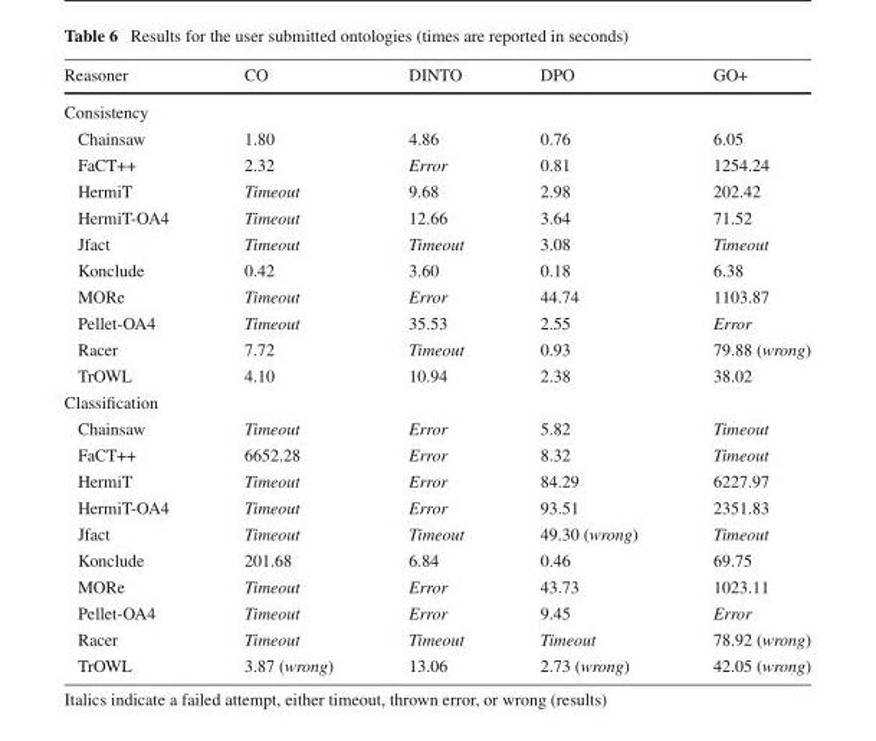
<table><thead><tr><td>Reasoner</td><td>CO</td><td>DINTO</td><td>DPO</td><td>GO+</td></tr></thead><tbody><tr><td colspan="5">Consistency</td></tr><tr><td>Chainsaw</td><td>1.80</td><td>4.86</td><td>0.76</td><td>6.05</td></tr><tr><td>FaCT++</td><td>2.32</td><td>Error</td><td>0.81</td><td>1254.24</td></tr><tr><td>HermiT</td><td>Timeout</td><td>9.68</td><td>2.98</td><td>202.42</td></tr><tr><td>HermiT-OA4</td><td>Timeout</td><td>12.66</td><td>3.64</td><td>71.52</td></tr><tr><td>Jfact</td><td>Timeout</td><td>Timeout</td><td>3.08</td><td>Timeout</td></tr><tr><td>Konclude</td><td>0.42</td><td>3.60</td><td>0.18</td><td>6.38</td></tr><tr><td>MORe</td><td>Timeout</td><td>Error</td><td>44.74</td><td>1103.87</td></tr><tr><td>Pellet-OA4</td><td>Timeout</td><td>35.53</td><td>2.55</td><td>Error</td></tr><tr><td>Racer</td><td>7.72</td><td>Timeout</td><td>0.93</td><td>79.88 (wrong)</td></tr><tr><td>TrOWL</td><td>4.10</td><td>10.94</td><td>2.38</td><td>38.02</td></tr><tr><td colspan="5">Classification</td></tr><tr><td>Chainsaw</td><td>Timeout</td><td>Error</td><td>5.82</td><td>Timeout</td></tr><tr><td>FaCT++</td><td>6652.28</td><td>Error</td><td>8.32</td><td>Timeout</td></tr><tr><td>HermiT</td><td>Timeout</td><td>Error</td><td>84.29</td><td>6227.97</td></tr><tr><td>HermiT-OA4</td><td>Timeout</td><td>Error</td><td>93.51</td><td>2351.83</td></tr><tr><td>Jfact</td><td>Timeout</td><td>Timeout</td><td>49.30 (wrong)</td><td>Timeout</td></tr><tr><td>Konclude</td><td>201.68</td><td>6.84</td><td>0.46</td><td>69.75</td></tr><tr><td>MORe</td><td>Timeout</td><td>Error</td><td>43.73</td><td>1023.11</td></tr><tr><td>Pellet-OA4</td><td>Timeout</td><td>Error</td><td>9.45</td><td>Error</td></tr><tr><td>Racer</td><td>Timeout</td><td>Timeout</td><td>Timeout</td><td>78.92 (wrong)</td></tr><tr><td>TrOWL</td><td>3.87 (wrong)</td><td>13.06</td><td>2.73 (wrong)</td><td>42.05 (wrong)</td></tr></tbody></table>